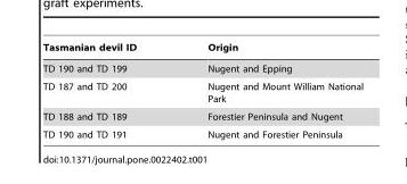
<table><thead><tr><td>Tasmanian devil ID</td><td>Origin</td></tr></thead><tbody><tr><td>TD 190 and TD 199</td><td>Nugent and Epping</td></tr><tr><td>TD 187 and TD 200</td><td>Nugent and Mount William National Park</td></tr><tr><td>TD 188 and TD 189</td><td>Forestier Peninsula and Nugent</td></tr><tr><td>TD 190 and TD 191</td><td>Nugent and Forestier Peninsula</td></tr></tbody></table>